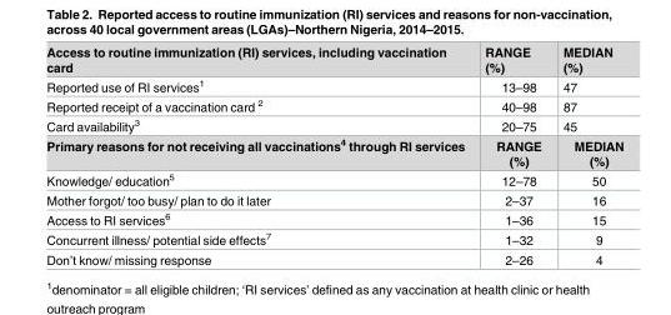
<table><tbody><tr><td>Access to routine immunization (RI) services, including vaccination card</td><td>RANGE (%)</td><td>MEDIAN (%)</td></tr><tr><td>Reported use of RI services<sup>1</sup></td><td>13–98</td><td>47</td></tr><tr><td>Reported receipt of a vaccination card <sup>2</sup></td><td>40–98</td><td>87</td></tr><tr><td>Card availability<sup>3</sup></td><td>20–75</td><td>45</td></tr><tr><td>Primary reasons for not receiving all vaccinations<sup>4</sup> through RI services</td><td>RANGE (%)</td><td>MEDIAN (%)</td></tr><tr><td>Knowledge/ education<sup>5</sup></td><td>12–78</td><td>50</td></tr><tr><td>Mother forgot/ too busy/ plan to do it later</td><td>2–37</td><td>16</td></tr><tr><td>Access to RI services<sup>6</sup></td><td>1–36</td><td>15</td></tr><tr><td>Concurrent illness/ potential side effects<sup>7</sup></td><td>1–32</td><td>9</td></tr><tr><td>Don’t know/ missing response</td><td>2–26</td><td>4</td></tr></tbody></table>